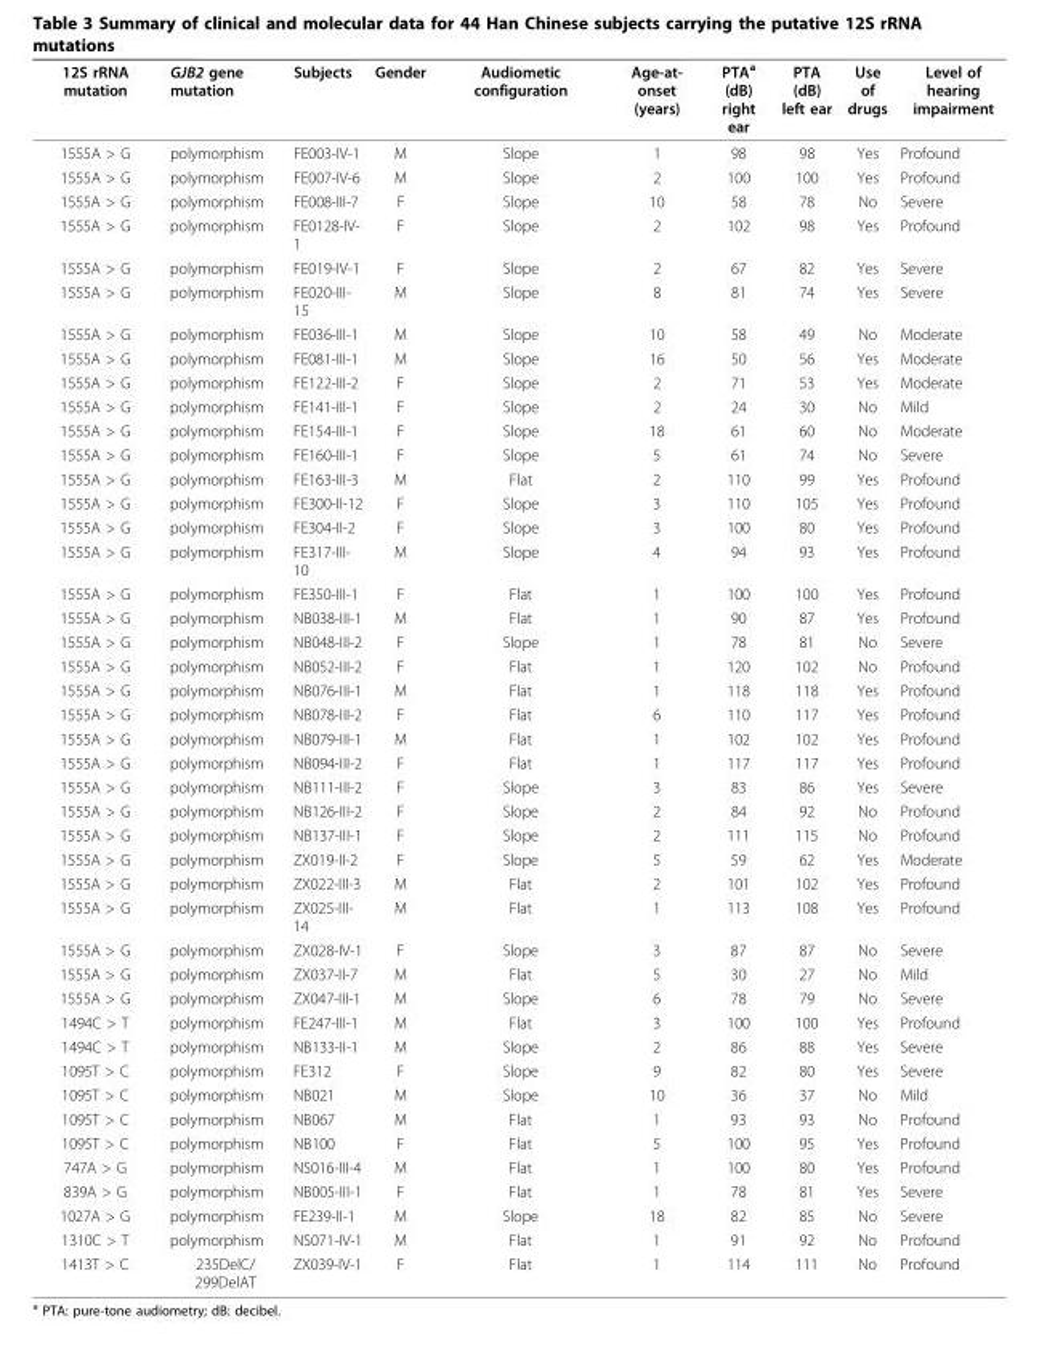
<table><thead><tr><td>12S rRNA mutation</td><td>GJB2 gene mutation</td><td>Subjects</td><td>Gender</td><td>Audiometic configuration</td><td>Age-at- onset (years)</td><td>PTA<sup>a</sup> (dB) right ear</td><td>PTA (dB) left ear</td><td>Use of drugs</td><td>Level of hearing impairment</td></tr></thead><tbody><tr><td>1555A &gt; G</td><td>polymorphism</td><td>FE003-IV-1</td><td>M</td><td>Slope</td><td>1</td><td>98</td><td>98</td><td>Yes</td><td>Profound</td></tr><tr><td>1555A &gt; G</td><td>polymorphism</td><td>FE007-IV-6</td><td>M</td><td>Slope</td><td>2</td><td>100</td><td>100</td><td>Yes</td><td>Profound</td></tr><tr><td>1555A &gt; G</td><td>polymorphism</td><td>FE008-III-7</td><td>F</td><td>Slope</td><td>10</td><td>58</td><td>78</td><td>No</td><td>Severe</td></tr><tr><td>1555A &gt; G</td><td>polymorphism</td><td>FE0128-IV- 1</td><td>F</td><td>Slope</td><td>2</td><td>102</td><td>98</td><td>Yes</td><td>Profound</td></tr><tr><td>1555A &gt; G</td><td>polymorphism</td><td>FE019-IV-1</td><td>F</td><td>Slope</td><td>2</td><td>67</td><td>82</td><td>Yes</td><td>Severe</td></tr><tr><td>1555A &gt; G</td><td>polymorphism</td><td>FE020-III- 15</td><td>M</td><td>Slope</td><td>8</td><td>81</td><td>74</td><td>Yes</td><td>Severe</td></tr><tr><td>1555A &gt; G</td><td>polymorphism</td><td>FE036-III-1</td><td>M</td><td>Slope</td><td>10</td><td>58</td><td>49</td><td>No</td><td>Moderate</td></tr><tr><td>1555A &gt; G</td><td>polymorphism</td><td>FE081-III-1</td><td>M</td><td>Slope</td><td>16</td><td>50</td><td>56</td><td>Yes</td><td>Moderate</td></tr><tr><td>1555A &gt; G</td><td>polymorphism</td><td>FE122-III-2</td><td>F</td><td>Slope</td><td>2</td><td>71</td><td>53</td><td>Yes</td><td>Moderate</td></tr><tr><td>1555A &gt; G</td><td>polymorphism</td><td>FE141-III-1</td><td>F</td><td>Slope</td><td>2</td><td>24</td><td>30</td><td>No</td><td>Mild</td></tr><tr><td>1555A &gt; G</td><td>polymorphism</td><td>FE154-III-1</td><td>F</td><td>Slope</td><td>18</td><td>61</td><td>60</td><td>No</td><td>Moderate</td></tr><tr><td>1555A &gt; G</td><td>polymorphism</td><td>FE160-III-1</td><td>F</td><td>Slope</td><td>5</td><td>61</td><td>74</td><td>No</td><td>Severe</td></tr><tr><td>1555A &gt; G</td><td>polymorphism</td><td>FE163-III-3</td><td>M</td><td>Flat</td><td>2</td><td>110</td><td>99</td><td>Yes</td><td>Profound</td></tr><tr><td>1555A &gt; G</td><td>polymorphism</td><td>FE300-II-12</td><td>F</td><td>Slope</td><td>3</td><td>110</td><td>105</td><td>Yes</td><td>Profound</td></tr><tr><td>1555A &gt; G</td><td>polymorphism</td><td>FE304-II-2</td><td>F</td><td>Slope</td><td>3</td><td>100</td><td>80</td><td>Yes</td><td>Profound</td></tr><tr><td>1555A &gt; G</td><td>polymorphism</td><td>FE317-III- 10</td><td>M</td><td>Slope</td><td>4</td><td>94</td><td>93</td><td>Yes</td><td>Profound</td></tr><tr><td>1555A &gt; G</td><td>polymorphism</td><td>FE350-III-1</td><td>F</td><td>Flat</td><td>1</td><td>100</td><td>100</td><td>Yes</td><td>Profound</td></tr><tr><td>1555A &gt; G</td><td>polymorphism</td><td>NB038-III-1</td><td>M</td><td>Flat</td><td>1</td><td>90</td><td>87</td><td>Yes</td><td>Profound</td></tr><tr><td>1555A &gt; G</td><td>polymorphism</td><td>NB048-III-2</td><td>F</td><td>Slope</td><td>1</td><td>78</td><td>81</td><td>No</td><td>Severe</td></tr><tr><td>1555A &gt; G</td><td>polymorphism</td><td>NB052-III-2</td><td>F</td><td>Flat</td><td>1</td><td>120</td><td>102</td><td>No</td><td>Profound</td></tr><tr><td>1555A &gt; G</td><td>polymorphism</td><td>NB076-III-1</td><td>M</td><td>Flat</td><td>1</td><td>118</td><td>118</td><td>Yes</td><td>Profound</td></tr><tr><td>1555A &gt; G</td><td>polymorphism</td><td>NB078-III-2</td><td>F</td><td>Flat</td><td>6</td><td>110</td><td>117</td><td>Yes</td><td>Profound</td></tr><tr><td>1555A &gt; G</td><td>polymorphism</td><td>NB079-III-1</td><td>M</td><td>Flat</td><td>1</td><td>102</td><td>102</td><td>Yes</td><td>Profound</td></tr><tr><td>1555A &gt; G</td><td>polymorphism</td><td>NB094-III-2</td><td>F</td><td>Flat</td><td>1</td><td>117</td><td>117</td><td>Yes</td><td>Profound</td></tr><tr><td>1555A &gt; G</td><td>polymorphism</td><td>NB111-III-2</td><td>F</td><td>Slope</td><td>3</td><td>83</td><td>86</td><td>Yes</td><td>Severe</td></tr><tr><td>1555A &gt; G</td><td>polymorphism</td><td>NB126-III-2</td><td>F</td><td>Slope</td><td>2</td><td>84</td><td>92</td><td>No</td><td>Profound</td></tr><tr><td>1555A &gt; G</td><td>polymorphism</td><td>NB137-III-1</td><td>F</td><td>Slope</td><td>2</td><td>111</td><td>115</td><td>No</td><td>Profound</td></tr><tr><td>1555A &gt; G</td><td>polymorphism</td><td>ZX019-II-2</td><td>F</td><td>Slope</td><td>5</td><td>59</td><td>62</td><td>Yes</td><td>Moderate</td></tr><tr><td>1555A &gt; G</td><td>polymorphism</td><td>ZX022-III-3</td><td>M</td><td>Flat</td><td>2</td><td>101</td><td>102</td><td>Yes</td><td>Profound</td></tr><tr><td>1555A &gt; G</td><td>polymorphism</td><td>ZX025-III- 14</td><td>M</td><td>Flat</td><td>1</td><td>113</td><td>108</td><td>Yes</td><td>Profound</td></tr><tr><td>1555A &gt; G</td><td>polymorphism</td><td>ZX028-IV-1</td><td>F</td><td>Slope</td><td>3</td><td>87</td><td>87</td><td>No</td><td>Severe</td></tr><tr><td>1555A &gt; G</td><td>polymorphism</td><td>ZX037-II-7</td><td>M</td><td>Flat</td><td>5</td><td>30</td><td>27</td><td>No</td><td>Mild</td></tr><tr><td>1555A &gt; G</td><td>polymorphism</td><td>ZX047-III-1</td><td>M</td><td>Slope</td><td>6</td><td>78</td><td>79</td><td>No</td><td>Severe</td></tr><tr><td>1494C &gt; T</td><td>polymorphism</td><td>FE247-III-1</td><td>M</td><td>Flat</td><td>3</td><td>100</td><td>100</td><td>Yes</td><td>Profound</td></tr><tr><td>1494C &gt; T</td><td>polymorphism</td><td>NB133-II-1</td><td>M</td><td>Slope</td><td>2</td><td>86</td><td>88</td><td>Yes</td><td>Severe</td></tr><tr><td>1095T &gt; C</td><td>polymorphism</td><td>FE312</td><td>F</td><td>Slope</td><td>9</td><td>82</td><td>80</td><td>Yes</td><td>Severe</td></tr><tr><td>1095T &gt; C</td><td>polymorphism</td><td>NB021</td><td>M</td><td>Slope</td><td>10</td><td>36</td><td>37</td><td>No</td><td>Mild</td></tr><tr><td>1095T &gt; C</td><td>polymorphism</td><td>NB067</td><td>M</td><td>Flat</td><td>1</td><td>93</td><td>93</td><td>No</td><td>Profound</td></tr><tr><td>1095T &gt; C</td><td>polymorphism</td><td>NB100</td><td>F</td><td>Flat</td><td>5</td><td>100</td><td>95</td><td>Yes</td><td>Profound</td></tr><tr><td>747A &gt; G</td><td>polymorphism</td><td>NS016-III-4</td><td>M</td><td>Flat</td><td>1</td><td>100</td><td>80</td><td>Yes</td><td>Profound</td></tr><tr><td>839A &gt; G</td><td>polymorphism</td><td>NB005-III-1</td><td>F</td><td>Flat</td><td>1</td><td>78</td><td>81</td><td>Yes</td><td>Severe</td></tr><tr><td>1027A &gt; G</td><td>polymorphism</td><td>FE239-II-1</td><td>M</td><td>Slope</td><td>18</td><td>82</td><td>85</td><td>No</td><td>Severe</td></tr><tr><td>1310C &gt; T</td><td>polymorphism</td><td>NS071-IV-1</td><td>M</td><td>Flat</td><td>1</td><td>91</td><td>92</td><td>No</td><td>Profound</td></tr><tr><td>1413T &gt; C</td><td>235DelC/ 299DelAT</td><td>ZX039-IV-1</td><td>F</td><td>Flat</td><td>1</td><td>114</td><td>111</td><td>No</td><td>Profound</td></tr></tbody></table>